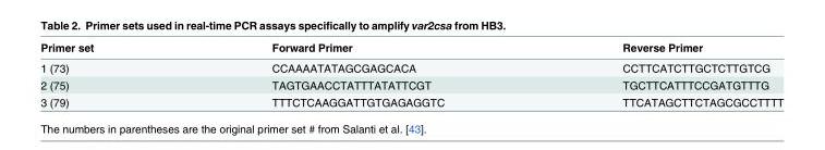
<table><thead><tr><td>Primer set</td><td>Forward Primer</td><td>Reverse Primer</td></tr></thead><tbody><tr><td>1 (73)</td><td>CCAAAATATAGCGAGCACA</td><td>CCTTCATCTTGCTCTTGTCG</td></tr><tr><td>2 (75)</td><td>TAGTGAACCTATTTATATTCGT</td><td>TGCTTCATTTCCGATGTTTG</td></tr><tr><td>3 (79)</td><td>TTTCTCAAGGATTGTGAGAGGTC</td><td>TTCATAGCTTCTAGCGCCTTTT</td></tr></tbody></table>